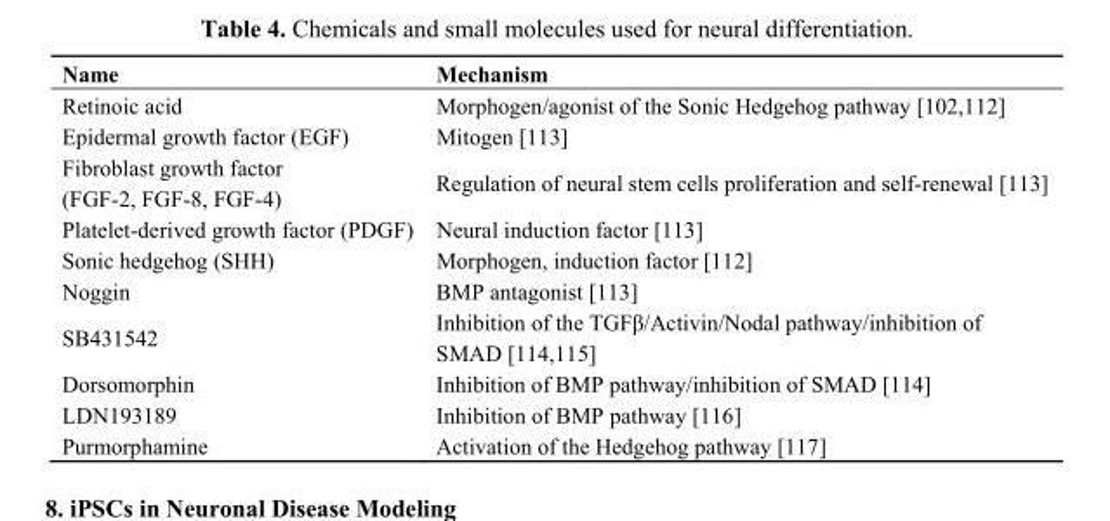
<table><thead><tr><td>Name</td><td>Mechanism</td></tr></thead><tbody><tr><td>Retinoic acid</td><td>Morphogen/agonist of the Sonic Hedgehog pathway [102,112]</td></tr><tr><td>Epidermal growth factor (EGF)</td><td>Mitogen [113]</td></tr><tr><td>Fibroblast growth factor (FGF-2, FGF-8, FGF-4)</td><td>Regulation of neural stem cells proliferation and self-renewal [113]</td></tr><tr><td>Platelet-derived growth factor (PDGF)</td><td>Neural induction factor [113]</td></tr><tr><td>Sonic hedgehog (SHH)</td><td>Morphogen, induction factor [112]</td></tr><tr><td>Noggin</td><td>BMP antagonist [113]</td></tr><tr><td>SB431542</td><td>Inhibition of the TGFβ/Activin/Nodal pathway/inhibition of SMAD [114,115]</td></tr><tr><td>Dorsomorphin</td><td>Inhibition of BMP pathway/inhibition of SMAD [114]</td></tr><tr><td>LDN193189</td><td>Inhibition of BMP pathway [116]</td></tr><tr><td>Purmorphamine</td><td>Activation of the Hedgehog pathway [117]</td></tr></tbody></table>